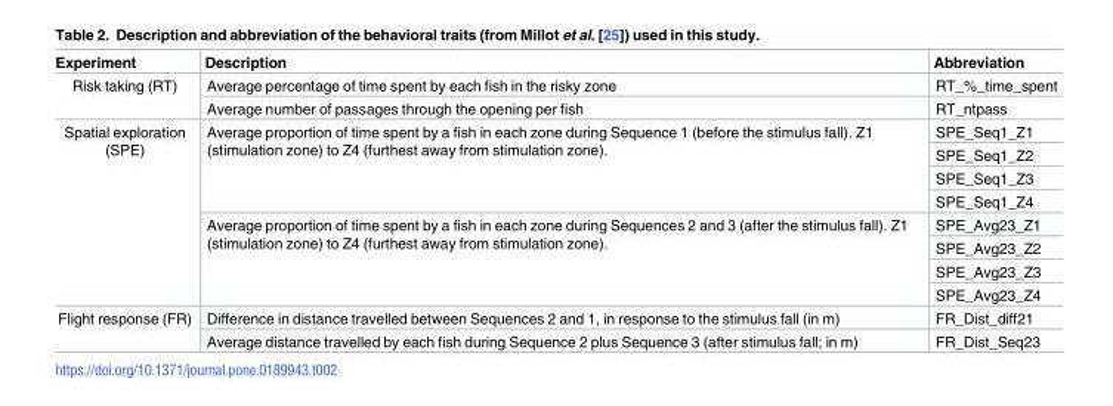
<table><thead><tr><td>Experiment</td><td>Description</td><td>Abbreviation</td></tr></thead><tbody><tr><td rowspan="2">Risk taking (RT)</td><td>Average percentage of time spent by each fish in the risky zone</td><td>RT_%_time_spent</td></tr><tr><td>Average number of passages through the opening per fish</td><td>RT_ntpass</td></tr><tr><td rowspan="8">Spatial exploration (SPE)</td><td rowspan="4">Average proportion of time spent by a fish in each zone during Sequence 1 (before the stimulus fall). Z1 (stimulation zone) to Z4 (furthest away from stimulation zone).</td><td>SPE_Seq1_Z1</td></tr><tr><td>SPE_Seq1_Z2</td></tr><tr><td>SPE_Seq1_Z3</td></tr><tr><td>SPE_Seq1_Z4</td></tr><tr><td rowspan="4">Average proportion of time spent by a fish in each zone during Sequences 2 and 3 (after the stimulus fall). Z1 (stimulation zone) to Z4 (furthest away from stimulation zone).</td><td>SPE_Avg23_Z1</td></tr><tr><td>SPE_Avg23_Z2</td></tr><tr><td>SPE_Avg23_Z3</td></tr><tr><td>SPE_Avg23_Z4</td></tr><tr><td rowspan="2">Flight response (FR)</td><td>Difference in distance travelled between Sequences 2 and 1, in response to the stimulus fall (in m)</td><td>FR_Dist_diff21</td></tr><tr><td>Average distance travelled by each fish during Sequence 2 plus Sequence 3 (after stimulus fall; in m)</td><td>FR_Dist_Seq23</td></tr></tbody></table>